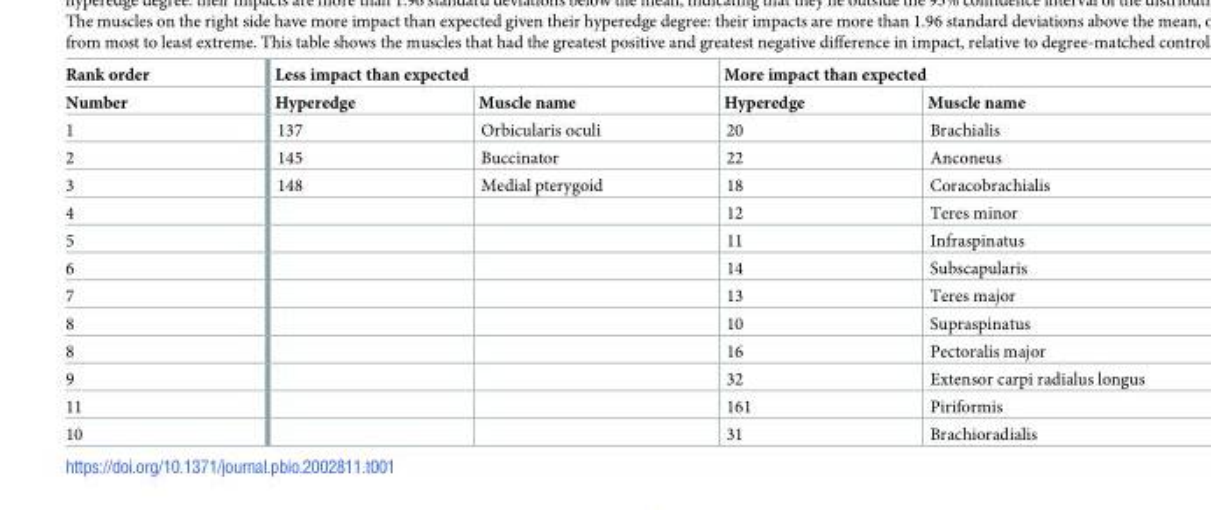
<table><thead><tr><td rowspan="2">Rank order Number</td><td colspan="2">Less impact than expected</td><td colspan="2">More impact than expected</td></tr><tr><td>Hyperedge</td><td>Muscle name</td><td>Hyperedge</td><td>Muscle name</td></tr></thead><tbody><tr><td>1</td><td>137</td><td>Orbicularis oculi</td><td>20</td><td>Brachialis</td></tr><tr><td>2</td><td>145</td><td>Buccinator</td><td>22</td><td>Anconeus</td></tr><tr><td>3</td><td>148</td><td>Medial pterygoid</td><td>18</td><td>Coracobrachialis</td></tr><tr><td>4</td><td></td><td></td><td>12</td><td>Teres minor</td></tr><tr><td>5</td><td></td><td></td><td>11</td><td>Infraspinatus</td></tr><tr><td>6</td><td></td><td></td><td>14</td><td>Subscapularis</td></tr><tr><td>7</td><td></td><td></td><td>13</td><td>Teres major</td></tr><tr><td>8</td><td></td><td></td><td>10</td><td>Supraspinatus</td></tr><tr><td>8</td><td></td><td></td><td>16</td><td>Pectoralis major</td></tr><tr><td>9</td><td></td><td></td><td>32</td><td>Extensor carpi radialus longus</td></tr><tr><td>11</td><td></td><td></td><td>161</td><td>Piriformis</td></tr><tr><td>10</td><td></td><td></td><td>31</td><td>Brachioradialis</td></tr></tbody></table>